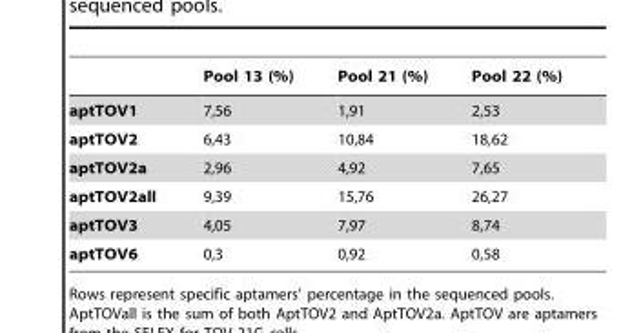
<table><thead><tr><td></td><td>Pool 13 (%)</td><td>Pool 21 (%)</td><td>Pool 22 (%)</td></tr></thead><tbody><tr><td>aptTOV1</td><td>7,56</td><td>1,91</td><td>2,53</td></tr><tr><td>aptTOV2</td><td>6,43</td><td>10,84</td><td>18,62</td></tr><tr><td>aptTOV2a</td><td>2,96</td><td>4,92</td><td>7,65</td></tr><tr><td>aptTOV2all</td><td>9,39</td><td>15,76</td><td>26,27</td></tr><tr><td>aptTOV3</td><td>4,05</td><td>7,97</td><td>8,74</td></tr><tr><td>aptTOV6</td><td>0,3</td><td>0,92</td><td>0,58</td></tr></tbody></table>